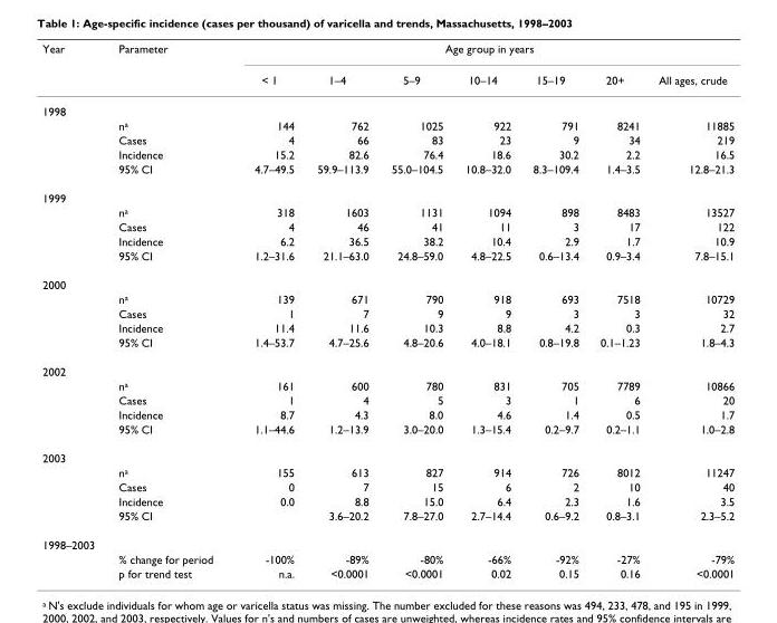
<table><thead><tr><td rowspan="2">Year</td><td rowspan="2">Parameter</td><td colspan="7">Age group in years</td></tr><tr><td>&lt; 1</td><td>1–4</td><td>5–9</td><td>10–14</td><td>15–19</td><td>20+</td><td>All ages, crude</td></tr></thead><tbody><tr><td colspan="9">1998</td></tr><tr><td></td><td>n<sup>a</sup></td><td>144</td><td>762</td><td>1025</td><td>922</td><td>791</td><td>8241</td><td>11885</td></tr><tr><td></td><td>Cases</td><td>4</td><td>66</td><td>83</td><td>23</td><td>9</td><td>34</td><td>219</td></tr><tr><td></td><td>Incidence</td><td>15.2</td><td>82.6</td><td>76.4</td><td>18.6</td><td>30.2</td><td>2.2</td><td>16.5</td></tr><tr><td></td><td>95% CI</td><td>4.7–49.5</td><td>59.9–113.9</td><td>55.0–104.5</td><td>10.8–32.0</td><td>8.3–109.4</td><td>1.4–3.5</td><td>12.8–21.3</td></tr><tr><td colspan="9">1999</td></tr><tr><td></td><td>n<sup>a</sup></td><td>318</td><td>1603</td><td>1131</td><td>1094</td><td>898</td><td>8483</td><td>13527</td></tr><tr><td></td><td>Cases</td><td>4</td><td>46</td><td>41</td><td>11</td><td>3</td><td>17</td><td>122</td></tr><tr><td></td><td>Incidence</td><td>6.2</td><td>36.5</td><td>38.2</td><td>10.4</td><td>2.9</td><td>1.7</td><td>10.9</td></tr><tr><td></td><td>95% CI</td><td>1.2–31.6</td><td>21.1–63.0</td><td>24.8–59.0</td><td>4.8–22.5</td><td>0.6–13.4</td><td>0.9–3.4</td><td>7.8–15.1</td></tr><tr><td colspan="9">2000</td></tr><tr><td></td><td>n<sup>a</sup></td><td>139</td><td>671</td><td>790</td><td>918</td><td>693</td><td>7518</td><td>10729</td></tr><tr><td></td><td>Cases</td><td>1</td><td>7</td><td>9</td><td>9</td><td>3</td><td>3</td><td>32</td></tr><tr><td></td><td>Incidence</td><td>11.4</td><td>11.6</td><td>10.3</td><td>8.8</td><td>4.2</td><td>0.3</td><td>2.7</td></tr><tr><td></td><td>95% CI</td><td>1.4–53.7</td><td>4.7–25.6</td><td>4.8–20.6</td><td>4.0–18.1</td><td>0.8–19.8</td><td>0.1–1.23</td><td>1.8–4.3</td></tr><tr><td colspan="9">2002</td></tr><tr><td></td><td>n<sup>a</sup></td><td>161</td><td>600</td><td>780</td><td>831</td><td>705</td><td>7789</td><td>10866</td></tr><tr><td></td><td>Cases</td><td>1</td><td>4</td><td>5</td><td>3</td><td>1</td><td>6</td><td>20</td></tr><tr><td></td><td>Incidence</td><td>8.7</td><td>4.3</td><td>8.0</td><td>4.6</td><td>1.4</td><td>0.5</td><td>1.7</td></tr><tr><td></td><td>95% CI</td><td>1.1–44.6</td><td>1.2–13.9</td><td>3.0–20.0</td><td>1.3–15.4</td><td>0.2–9.7</td><td>0.2–1.1</td><td>1.0–2.8</td></tr><tr><td colspan="9">2003</td></tr><tr><td></td><td>n<sup>a</sup></td><td>155</td><td>613</td><td>827</td><td>914</td><td>726</td><td>8012</td><td>11247</td></tr><tr><td></td><td>Cases</td><td>0</td><td>7</td><td>15</td><td>6</td><td>2</td><td>10</td><td>40</td></tr><tr><td></td><td>Incidence</td><td>0.0</td><td>8.8</td><td>15.0</td><td>6.4</td><td>2.3</td><td>1.6</td><td>3.5</td></tr><tr><td></td><td>95% CI</td><td></td><td>3.6–20.2</td><td>7.8–27.0</td><td>2.7–14.4</td><td>0.6–9.2</td><td>0.8–3.1</td><td>2.3–5.2</td></tr><tr><td colspan="9">1998–2003</td></tr><tr><td></td><td>% change for period</td><td>-100%</td><td>-89%</td><td>-80%</td><td>-66%</td><td>-92%</td><td>-27%</td><td>-79%</td></tr><tr><td></td><td>p for trend test</td><td>n.a.</td><td>&lt;0.0001</td><td>&lt;0.0001</td><td>0.02</td><td>0.15</td><td>0.16</td><td>&lt;0.0001</td></tr></tbody></table>